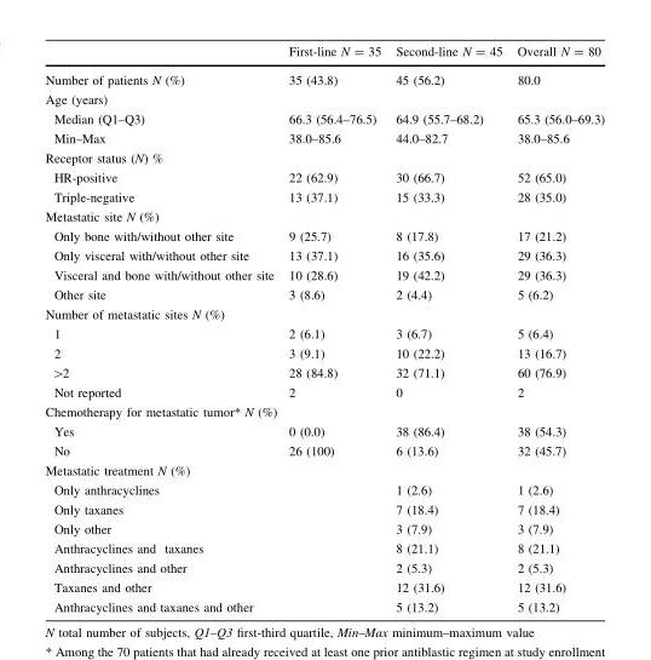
<table><thead><tr><td></td><td>First-line N = 35</td><td>Second-line N = 45</td><td>Overall N = 80</td></tr></thead><tbody><tr><td>Number of patients N (%)</td><td>35 (43.8)</td><td>45 (56.2)</td><td>80.0</td></tr><tr><td colspan="4">Age (years)</td></tr><tr><td>Median (Q1–Q3)</td><td>66.3 (56.4–76.5)</td><td>64.9 (55.7–68.2)</td><td>65.3 (56.0–69.3)</td></tr><tr><td>Min–Max</td><td>38.0–85.6</td><td>44.0–82.7</td><td>38.0–85.6</td></tr><tr><td colspan="4">Receptor status (N) %</td></tr><tr><td>HR-positive</td><td>22 (62.9)</td><td>30 (66.7)</td><td>52 (65.0)</td></tr><tr><td>Triple-negative</td><td>13 (37.1)</td><td>15 (33.3)</td><td>28 (35.0)</td></tr><tr><td colspan="4">Metastatic site N (%)</td></tr><tr><td>Only bone with/without other site</td><td>9 (25.7)</td><td>8 (17.8)</td><td>17 (21.2)</td></tr><tr><td>Only visceral with/without other site</td><td>13 (37.1)</td><td>16 (35.6)</td><td>29 (36.3)</td></tr><tr><td>Visceral and bone with/without other site</td><td>10 (28.6)</td><td>19 (42.2)</td><td>29 (36.3)</td></tr><tr><td>Other site</td><td>3 (8.6)</td><td>2 (4.4)</td><td>5 (6.2)</td></tr><tr><td colspan="4">Number of metastatic sites N (%)</td></tr><tr><td>1</td><td>2 (6.1)</td><td>3 (6.7)</td><td>5 (6.4)</td></tr><tr><td>2</td><td>3 (9.1)</td><td>10 (22.2)</td><td>13 (16.7)</td></tr><tr><td>&gt;2</td><td>28 (84.8)</td><td>32 (71.1)</td><td>60 (76.9)</td></tr><tr><td>Not reported</td><td>2</td><td>0</td><td>2</td></tr><tr><td colspan="4">Chemotherapy for metastatic tumor* N (%)</td></tr><tr><td>Yes</td><td>0 (0.0)</td><td>38 (86.4)</td><td>38 (54.3)</td></tr><tr><td>No</td><td>26 (100)</td><td>6 (13.6)</td><td>32 (45.7)</td></tr><tr><td colspan="4">Metastatic treatment N (%)</td></tr><tr><td>Only anthracyclines</td><td></td><td>1 (2.6)</td><td>1 (2.6)</td></tr><tr><td>Only taxanes</td><td></td><td>7 (18.4)</td><td>7 (18.4)</td></tr><tr><td>Only other</td><td></td><td>3 (7.9)</td><td>3 (7.9)</td></tr><tr><td>Anthracyclines and taxanes</td><td></td><td>8 (21.1)</td><td>8 (21.1)</td></tr><tr><td>Anthracyclines and other</td><td></td><td>2 (5.3)</td><td>2 (5.3)</td></tr><tr><td>Taxanes and other</td><td></td><td>12 (31.6)</td><td>12 (31.6)</td></tr><tr><td>Anthracyclines and taxanes and other</td><td></td><td>5 (13.2)</td><td>5 (13.2)</td></tr></tbody></table>